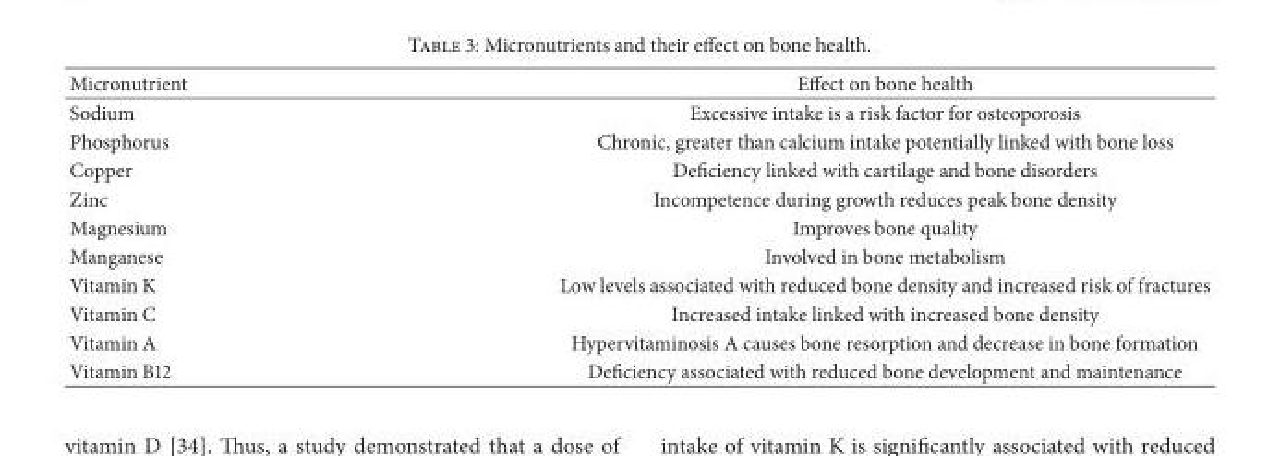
<table><thead><tr><td>Micronutrient</td><td>Effect on bone health</td></tr></thead><tbody><tr><td>Sodium</td><td>Excessive intake is a risk factor for osteoporosis</td></tr><tr><td>Phosphorus</td><td>Chronic, greater than calcium intake potentially linked with bone loss</td></tr><tr><td>Copper</td><td>Deficiency linked with cartilage and bone disorders</td></tr><tr><td>Zinc</td><td>Incompetence during growth reduces peak bone density</td></tr><tr><td>Magnesium</td><td>Improves bone quality</td></tr><tr><td>Manganese</td><td>Involved in bone metabolism</td></tr><tr><td>Vitamin K</td><td>Low levels associated with reduced bone density and increased risk of fractures</td></tr><tr><td>Vitamin C</td><td>Increased intake linked with increased bone density</td></tr><tr><td>Vitamin A</td><td>Hypervitaminosis A causes bone resorption and decrease in bone formation</td></tr><tr><td>Vitamin B12</td><td>Deficiency associated with reduced bone development and maintenance</td></tr></tbody></table>